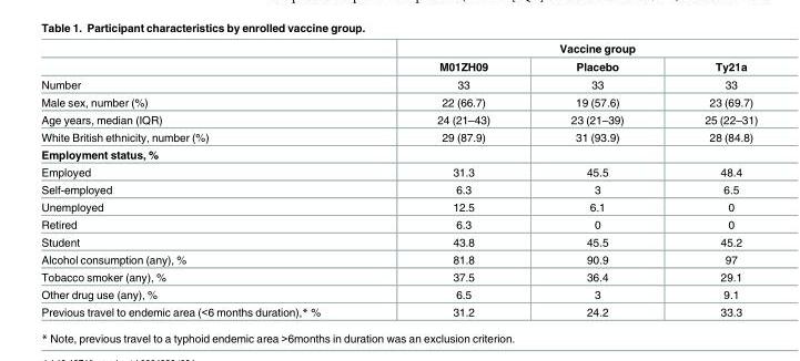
<table><thead><tr><td rowspan="2"></td><td colspan="3">Vaccine group</td></tr><tr><td>M01ZH09</td><td>Placebo</td><td>Ty21a</td></tr></thead><tbody><tr><td>Number</td><td>33</td><td>33</td><td>33</td></tr><tr><td>Male sex, number (%)</td><td>22 (66.7)</td><td>19 (57.6)</td><td>23 (69.7)</td></tr><tr><td>Age years, median (IQR)</td><td>24 (21–43)</td><td>23 (21–39)</td><td>25 (22–31)</td></tr><tr><td>White British ethnicity, number (%)</td><td>29 (87.9)</td><td>31 (93.9)</td><td>28 (84.8)</td></tr><tr><td colspan="4">Employment status, %</td></tr><tr><td>Employed</td><td>31.3</td><td>45.5</td><td>48.4</td></tr><tr><td>Self-employed</td><td>6.3</td><td>3</td><td>6.5</td></tr><tr><td>Unemployed</td><td>12.5</td><td>6.1</td><td>0</td></tr><tr><td>Retired</td><td>6.3</td><td>0</td><td>0</td></tr><tr><td>Student</td><td>43.8</td><td>45.5</td><td>45.2</td></tr><tr><td>Alcohol consumption (any), %</td><td>81.8</td><td>90.9</td><td>97</td></tr><tr><td>Tobacco smoker (any), %</td><td>37.5</td><td>36.4</td><td>29.1</td></tr><tr><td>Other drug use (any), %</td><td>6.5</td><td>3</td><td>9.1</td></tr><tr><td>Previous travel to endemic area (&lt;6 months duration),* %</td><td>31.2</td><td>24.2</td><td>33.3</td></tr></tbody></table>